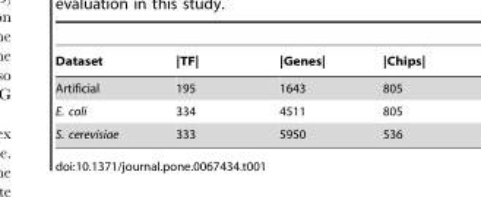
<table><thead><tr><td>Dataset</td><td>|TF|</td><td>|Genes|</td><td>|Chips|</td></tr></thead><tbody><tr><td>Artificial</td><td>195</td><td>1643</td><td>805</td></tr><tr><td>E. coli</td><td>334</td><td>4511</td><td>805</td></tr><tr><td>S. cerevisiae</td><td>333</td><td>5950</td><td>536</td></tr></tbody></table>